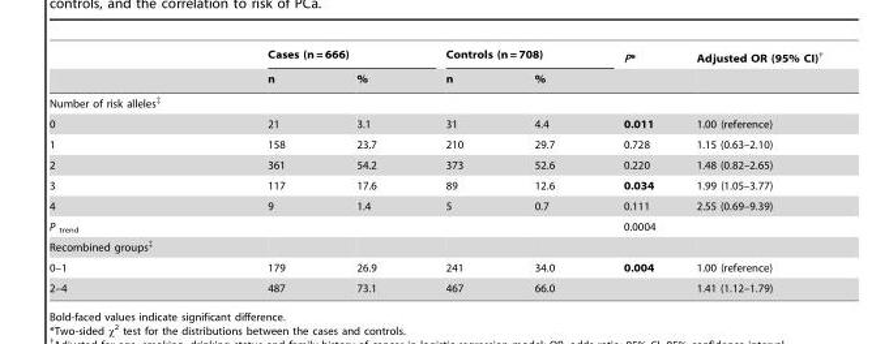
<table><thead><tr><td rowspan="2"></td><td colspan="2">Cases (n = 666)</td><td colspan="2">Controls (n = 708)</td><td rowspan="2">P*</td><td rowspan="2">Adjusted OR (95% CI)†</td></tr><tr><td>n</td><td>%</td><td>n</td><td>%</td></tr></thead><tbody><tr><td colspan="7">Number of risk alleles‡</td></tr><tr><td>0</td><td>21</td><td>3.1</td><td>31</td><td>4.4</td><td>0.011</td><td>1.00 (reference)</td></tr><tr><td>1</td><td>158</td><td>23.7</td><td>210</td><td>29.7</td><td>0.728</td><td>1.15 (0.63–2.10)</td></tr><tr><td>2</td><td>361</td><td>54.2</td><td>373</td><td>52.6</td><td>0.220</td><td>1.48 (0.82–2.65)</td></tr><tr><td>3</td><td>117</td><td>17.6</td><td>89</td><td>12.6</td><td>0.034</td><td>1.99 (1.05–3.77)</td></tr><tr><td>4</td><td>9</td><td>1.4</td><td>5</td><td>0.7</td><td>0.111</td><td>2.55 (0.69–9.39)</td></tr><tr><td>P <sub>trend</sub></td><td></td><td></td><td></td><td></td><td>0.0004</td><td></td></tr><tr><td colspan="7">Recombined groups‡</td></tr><tr><td>0–1</td><td>179</td><td>26.9</td><td>241</td><td>34.0</td><td>0.004</td><td>1.00 (reference)</td></tr><tr><td>2–4</td><td>487</td><td>73.1</td><td>467</td><td>66.0</td><td></td><td>1.41 (1.12–1.79)</td></tr></tbody></table>